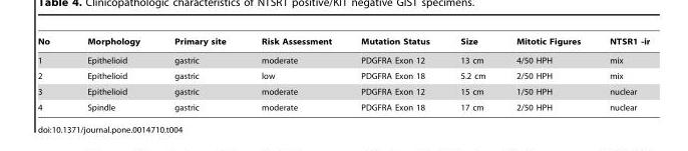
<table><thead><tr><td>No</td><td>Morphology</td><td>Primary site</td><td>Risk Assessment</td><td>Mutation Status</td><td>Size</td><td>Mitotic Figures</td><td>NTSR1 -ir</td></tr></thead><tbody><tr><td>1</td><td>Epithelioid</td><td>gastric</td><td>moderate</td><td>PDGFRA Exon 12</td><td>13 cm</td><td>4/50 HPH</td><td>mix</td></tr><tr><td>2</td><td>Epithelioid</td><td>gastric</td><td>low</td><td>PDGFRA Exon 18</td><td>5.2 cm</td><td>2/50 HPH</td><td>mix</td></tr><tr><td>3</td><td>Epithelioid</td><td>gastric</td><td>moderate</td><td>PDGFRA Exon 12</td><td>15 cm</td><td>1/50 HPH</td><td>nuclear</td></tr><tr><td>4</td><td>Spindle</td><td>gastric</td><td>moderate</td><td>PDGFRA Exon 18</td><td>17 cm</td><td>2/50 HPH</td><td>nuclear</td></tr></tbody></table>